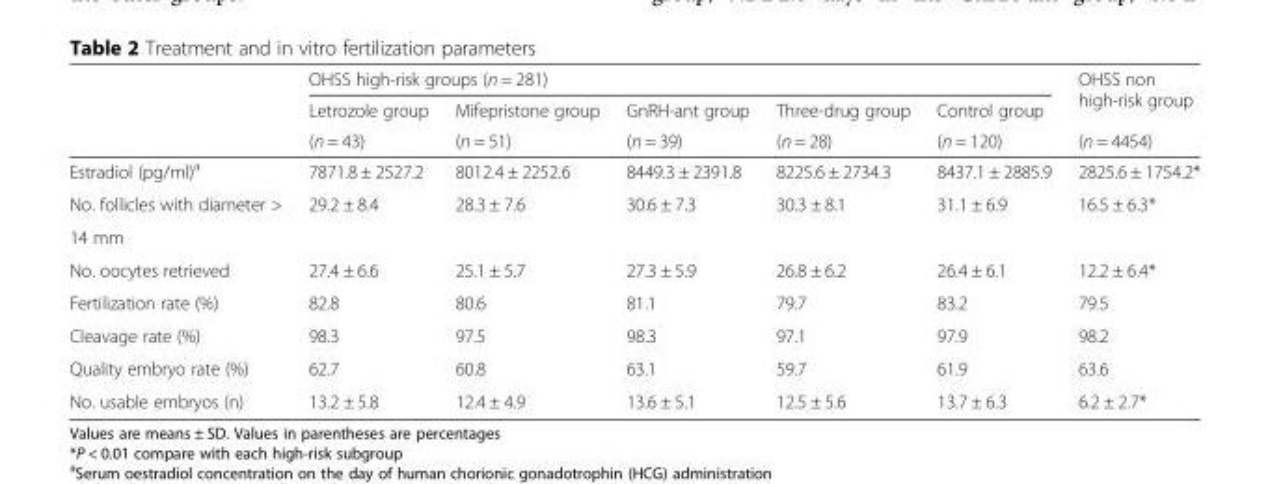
<table><thead><tr><td rowspan="3"></td><td colspan="5">OHSS high-risk groups (n = 281)</td><td rowspan="3">OHSS non high-risk group (n = 4454)</td></tr><tr><td rowspan="2">Letrozole group (n = 43)</td><td rowspan="2">Mifepristone group (n = 51)</td><td rowspan="2">GnRH-ant group (n = 39)</td><td rowspan="2">Three-drug group (n = 28)</td><td rowspan="2">Control group (n = 120)</td></tr><tr></tr></thead><tbody><tr><td>Estradiol (pg/ml)<sup>a</sup></td><td>7871.8 ± 2527.2</td><td>8012.4 ± 2252.6</td><td>8449.3 ± 2391.8</td><td>8225.6 ± 2734.3</td><td>8437.1 ± 2885.9</td><td>2825.6 ± 1754.2*</td></tr><tr><td>No. follicles with diameter &gt;</td><td>29.2 ± 8.4</td><td>28.3 ± 7.6</td><td>30.6 ± 7.3</td><td>30.3 ± 8.1</td><td>31.1 ± 6.9</td><td>16.5 ± 6.3*</td></tr><tr><td colspan="7">14 mm</td></tr><tr><td>No. oocytes retrieved</td><td>27.4 ± 6.6</td><td>25.1 ± 5.7</td><td>27.3 ± 5.9</td><td>26.8 ± 6.2</td><td>26.4 ± 6.1</td><td>12.2 ± 6.4*</td></tr><tr><td>Fertilization rate (%)</td><td>82.8</td><td>80.6</td><td>81.1</td><td>79.7</td><td>83.2</td><td>79.5</td></tr><tr><td>Cleavage rate (%)</td><td>98.3</td><td>97.5</td><td>98.3</td><td>97.1</td><td>97.9</td><td>98.2</td></tr><tr><td>Quality embryo rate (%)</td><td>62.7</td><td>60.8</td><td>63.1</td><td>59.7</td><td>61.9</td><td>63.6</td></tr><tr><td>No. usable embryos (n)</td><td>13.2 ± 5.8</td><td>12.4 ± 4.9</td><td>13.6 ± 5.1</td><td>12.5 ± 5.6</td><td>13.7 ± 6.3</td><td>6.2 ± 2.7*</td></tr></tbody></table>